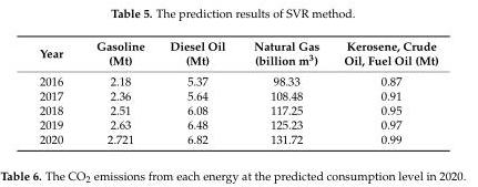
<table><thead><tr><td>Year</td><td>Gasoline (Mt)</td><td>Diesel Oil (Mt)</td><td>Natural Gas (billion m<sup>3</sup>)</td><td>Kerosene, Crude Oil, Fuel Oil (Mt)</td></tr></thead><tbody><tr><td>2016</td><td>2.18</td><td>5.37</td><td>98.33</td><td>0.87</td></tr><tr><td>2017</td><td>2.36</td><td>5.64</td><td>108.48</td><td>0.91</td></tr><tr><td>2018</td><td>2.51</td><td>6.08</td><td>117.25</td><td>0.95</td></tr><tr><td>2019</td><td>2.63</td><td>6.48</td><td>125.23</td><td>0.97</td></tr><tr><td>2020</td><td>2.721</td><td>6.82</td><td>131.72</td><td>0.99</td></tr></tbody></table>